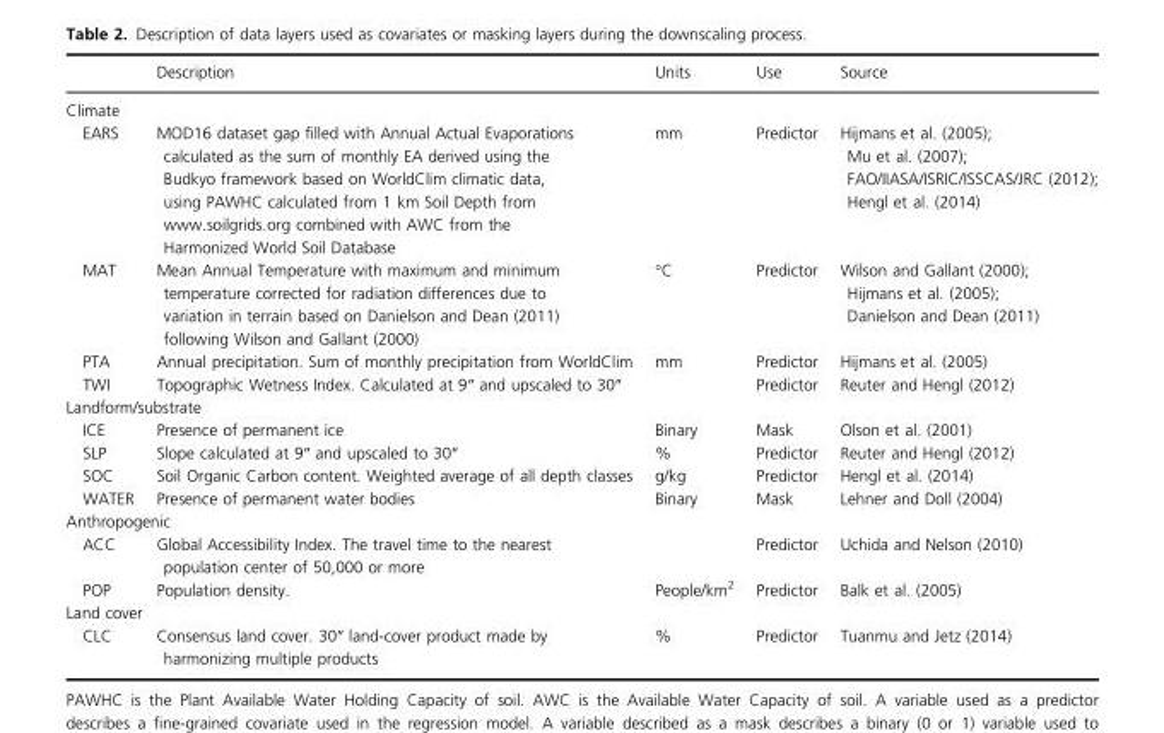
<table><thead><tr><td></td><td>Description</td><td>Units</td><td>Use</td><td>Source</td></tr></thead><tbody><tr><td colspan="5">Climate</td></tr><tr><td>EARS</td><td>MOD16 dataset gap filled with Annual Actual Evaporations calculated as the sum of monthly EA derived using the Budkyo framework based on WorldClim climatic data, using PAWHC calculated from 1 km Soil Depth from www.soilgrids.org combined with AWC from the Harmonized World Soil Database</td><td>mm</td><td>Predictor</td><td>Hijmans et al. (2005); Mu et al. (2007); FAO/IIASA/ISRIC/ISSCAS/JRC (2012); Hengl et al. (2014)</td></tr><tr><td>MAT</td><td>Mean Annual Temperature with maximum and minimum temperature corrected for radiation differences due to variation in terrain based on Danielson and Dean (2011) following Wilson and Gallant (2000)</td><td>°C</td><td>Predictor</td><td>Wilson and Gallant (2000); Hijmans et al. (2005); Danielson and Dean (2011)</td></tr><tr><td>PTA</td><td>Annual precipitation. Sum of monthly precipitation from WorldClim</td><td>mm</td><td>Predictor</td><td>Hijmans et al. (2005)</td></tr><tr><td>TWI</td><td>Topographic Wetness Index. Calculated at 9″ and upscaled to 30″</td><td></td><td>Predictor</td><td>Reuter and Hengl (2012)</td></tr><tr><td colspan="5">Landform/substrate</td></tr><tr><td>ICE</td><td>Presence of permanent ice</td><td>Binary</td><td>Mask</td><td>Olson et al. (2001)</td></tr><tr><td>SLP</td><td>Slope calculated at 9″ and upscaled to 30″</td><td>%</td><td>Predictor</td><td>Reuter and Hengl (2012)</td></tr><tr><td>SOC</td><td>Soil Organic Carbon content. Weighted average of all depth classes</td><td>g/kg</td><td>Predictor</td><td>Hengl et al. (2014)</td></tr><tr><td>WATER</td><td>Presence of permanent water bodies</td><td>Binary</td><td>Mask</td><td>Lehner and Doll (2004)</td></tr><tr><td colspan="5">Anthropogenic</td></tr><tr><td>ACC</td><td>Global Accessibility Index. The travel time to the nearest population center of 50,000 or more</td><td></td><td>Predictor</td><td>Uchida and Nelson (2010)</td></tr><tr><td>POP</td><td>Population density.</td><td>People/km<sup>2</sup></td><td>Predictor</td><td>Balk et al. (2005)</td></tr><tr><td colspan="5">Land cover</td></tr><tr><td>CLC</td><td>Consensus land cover. 30″ land-cover product made by harmonizing multiple products</td><td>%</td><td>Predictor</td><td>Tuanmu and Jetz (2014)</td></tr></tbody></table>